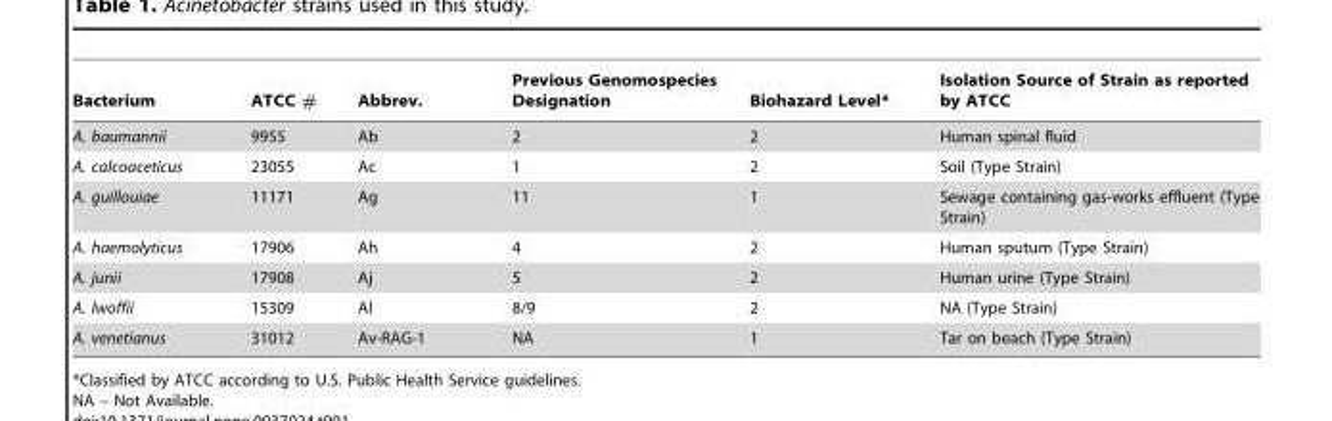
<table><thead><tr><td>Bacterium</td><td>ATCC #</td><td>Abbrev.</td><td>Previous Genomospecies Designation</td><td>Biohazard Level*</td><td>Isolation Source of Strain as reported by ATCC</td></tr></thead><tbody><tr><td>A. baumannii</td><td>9955</td><td>Ab</td><td>2</td><td>2</td><td>Human spinal fluid</td></tr><tr><td>A. calcoaceticus</td><td>23055</td><td>Ac</td><td>1</td><td>2</td><td>Soil (Type Strain)</td></tr><tr><td>A. guillouiae</td><td>11171</td><td>Ag</td><td>11</td><td>1</td><td>Sewage containing gas-works effluent (Type Strain)</td></tr><tr><td>A. haemolyticus</td><td>17906</td><td>Ah</td><td>4</td><td>2</td><td>Human sputum (Type Strain)</td></tr><tr><td>A. junii</td><td>17908</td><td>Aj</td><td>5</td><td>2</td><td>Human urine (Type Strain)</td></tr><tr><td>A. lwoffii</td><td>15309</td><td>Al</td><td>8/9</td><td>2</td><td>NA (Type Strain)</td></tr><tr><td>A. venetianus</td><td>31012</td><td>Av-RAG-1</td><td>NA</td><td>1</td><td>Tar on beach (Type Strain)</td></tr></tbody></table>